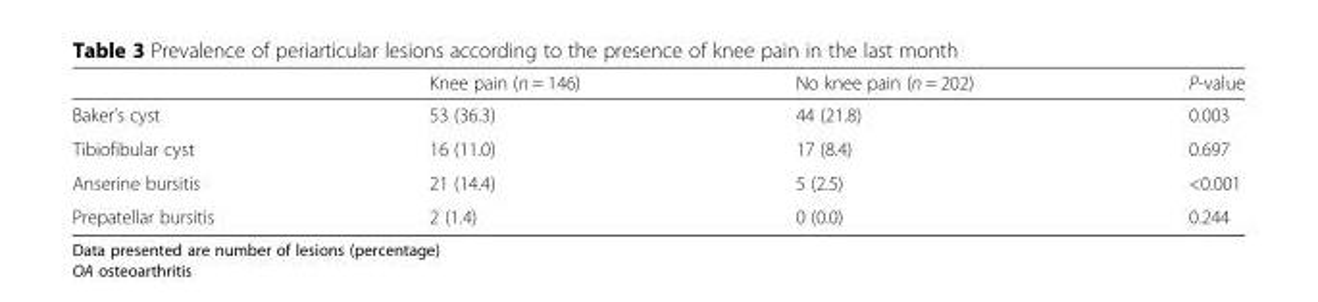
<table><thead><tr><td></td><td>Knee pain (n = 146)</td><td>No knee pain (n = 202)</td><td>P-value</td></tr></thead><tbody><tr><td>Baker’s cyst</td><td>53 (36.3)</td><td>44 (21.8)</td><td>0.003</td></tr><tr><td>Tibiofibular cyst</td><td>16 (11.0)</td><td>17 (8.4)</td><td>0.697</td></tr><tr><td>Anserine bursitis</td><td>21 (14.4)</td><td>5 (2.5)</td><td>&lt;0.001</td></tr><tr><td>Prepatellar bursitis</td><td>2 (1.4)</td><td>0 (0.0)</td><td>0.244</td></tr></tbody></table>